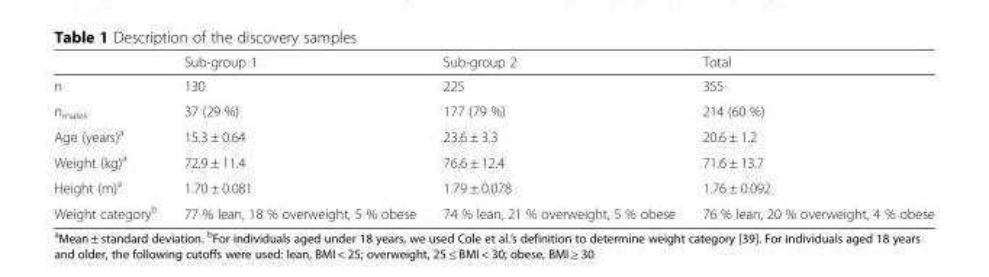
<table><thead><tr><td></td><td>Sub-group 1</td><td>Sub-group 2</td><td>Total</td></tr></thead><tbody><tr><td>n</td><td>130</td><td>225</td><td>355</td></tr><tr><td>n<sub>males</sub></td><td>37 (29 %)</td><td>177 (79 %)</td><td>214 (60 %)</td></tr><tr><td>Age (years)<sup>a</sup></td><td>15.3 ± 0.64</td><td>23.6 ± 3.3</td><td>20.6 ± 1.2</td></tr><tr><td>Weight (kg)<sup>a</sup></td><td>72.9 ± 11.4</td><td>76.6 ± 12.4</td><td>71.6 ± 13.7</td></tr><tr><td>Height (m)<sup>a</sup></td><td>1.70 ± 0.081</td><td>1.79 ± 0.078</td><td>1.76 ± 0.092</td></tr><tr><td>Weight category<sup>b</sup></td><td>77 % lean, 18 % overweight, 5 % obese</td><td>74 % lean, 21 % overweight, 5 % obese</td><td>76 % lean, 20 % overweight, 4 % obese</td></tr></tbody></table>